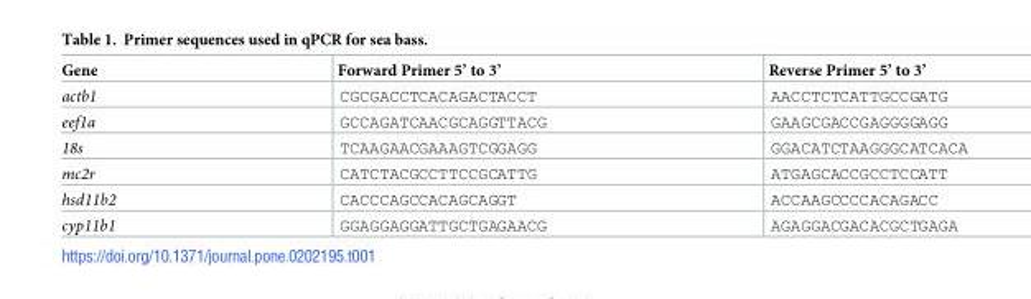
<table><thead><tr><td>Gene</td><td>Forward Primer 5’ to 3’</td><td>Reverse Primer 5’ to 3’</td></tr></thead><tbody><tr><td>actb1</td><td>CGCGACCTCACAGACTACCT</td><td>AACCTCTCATTGCCGATG</td></tr><tr><td>eef1a</td><td>GCCAGATCAACGCAGGTTACG</td><td>GAAGCGACCGAGGGGAGG</td></tr><tr><td>18s</td><td>TCAAGAACGAAAGTCGGAGG</td><td>GGACATCTAAGGGCATCACA</td></tr><tr><td>mc2r</td><td>CATCTACGCCTTCCGCATTG</td><td>ATGAGCACCGCCTCCATT</td></tr><tr><td>hsd11b2</td><td>CACCCAGCCACAGCAGGT</td><td>ACCAAGCCCCACAGACC</td></tr><tr><td>cyp11b1</td><td>GGAGGAGGATTGCTGAGAACG</td><td>AGAGGACGACACGCTGAGA</td></tr></tbody></table>